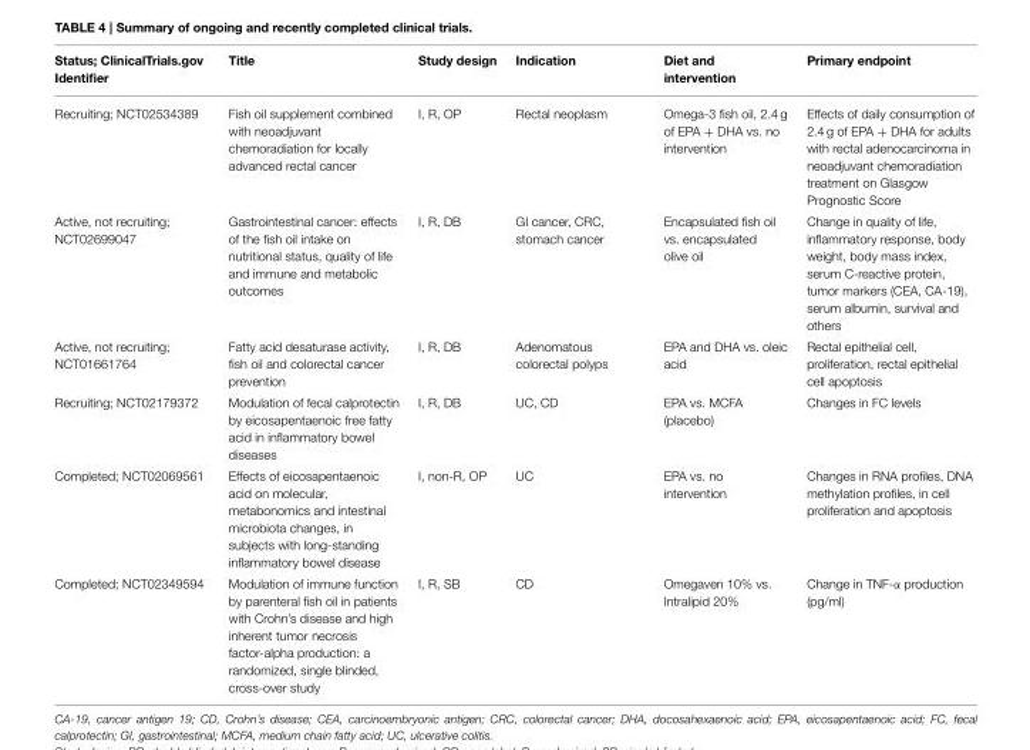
<table><thead><tr><td>Status; ClinicalTrials.gov Identifier</td><td>Title</td><td>Study design</td><td>Indication</td><td>Diet and intervention</td><td>Primary endpoint</td></tr></thead><tbody><tr><td>Recruiting; NCT02534389</td><td>Fish oil supplement combined with neoadjuvant chemoradiation for locally advanced rectal cancer</td><td>I, R, OP</td><td>Rectal neoplasm</td><td>Omega-3 fish oil, 2.4 g of EPA + DHA vs. no intervention</td><td>Effects of daily consumption of 2.4 g of EPA + DHA for adults with rectal adenocarcinoma in neoadjuvant chemoradiation treatment on Glasgow Prognostic Score</td></tr><tr><td>Active, not recruiting; NCT02699047</td><td>Gastrointestinal cancer: effects of the fish oil intake on nutritional status, quality of life and immune and metabolic outcomes</td><td>I, R, DB</td><td>GI cancer, CRC, stomach cancer</td><td>Encapsulated fish oil vs. encapsulated olive oil</td><td>Change in quality of life, inflammatory response, body weight, body mass index, serum C-reactive protein, tumor markers (CEA, CA-19), serum albumin, survival and others</td></tr><tr><td>Active, not recruiting; NCT01661764</td><td>Fatty acid desaturase activity, fish oil and colorectal cancer prevention</td><td>I, R, DB</td><td>Adenomatous colorectal polyps</td><td>EPA and DHA vs. oleic acid</td><td>Rectal epithelial cell, proliferation, rectal epithelial cell apoptosis</td></tr><tr><td>Recruiting; NCT02179372</td><td>Modulation of fecal calprotectin by eicosapentaenoic free fatty acid in inflammatory bowel diseases</td><td>I, R, DB</td><td>UC, CD</td><td>EPA vs. MCFA (placebo)</td><td>Changes in FC levels</td></tr><tr><td>Completed; NCT02069561</td><td>Effects of eicosapentaenoic acid on molecular, metabonomics and intestinal microbiota changes, in subjects with long-standing inflammatory bowel disease</td><td>I, non-R, OP</td><td>UC</td><td>EPA vs. no intervention</td><td>Changes in RNA profiles, DNA methylation profiles, in cell proliferation and apoptosis</td></tr><tr><td>Completed; NCT02349594</td><td>Modulation of immune function by parenteral fish oil in patients with Crohn’s disease and high inherent tumor necrosis factor-alpha production: a randomized, single blinded, cross-over study</td><td>I, R, SB</td><td>CD</td><td>Omegaven 10% vs. Intralipid 20%</td><td>Change in TNF-α production (pg/ml)</td></tr></tbody></table>